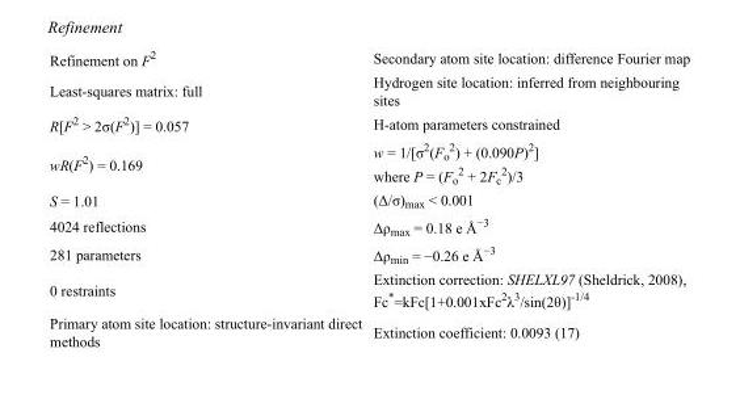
<table><tbody><tr><td>Refinement on F<sup>2</sup></td><td>Secondary atom site location: difference Fourier map</td></tr><tr><td>Least-squares matrix: full</td><td>Hydrogen site location: inferred from neighbouring sites</td></tr><tr><td>R[F<sup>2</sup> &gt; 2σ(F<sup>2</sup>)] = 0.057</td><td>H-atom parameters constrained</td></tr><tr><td>wR(F<sup>2</sup>) = 0.169</td><td>w = 1/[σ<sup>2</sup>(F<sub>o</sub> <sup>2</sup>) + (0.090P)<sup>2</sup>] where P = (F<sub>o</sub> <sup>2</sup> + 2F<sub>c</sub> <sup>2</sup>)/3</td></tr><tr><td>S = 1.01</td><td>(Δ/σ)<sub>max</sub> &lt; 0.001</td></tr><tr><td>4024 reflections</td><td>Δρ<sub>max</sub> = 0.18 e Å<sup>−3</sup></td></tr><tr><td>281 parameters</td><td>Δρ<sub>min</sub> = −0.26 e Å<sup>−3</sup></td></tr><tr><td>0 restraints</td><td>Extinction correction: SHELXL97 (Sheldrick, 2008), Fc*=kFc[1+0.001xFc<sup>2</sup>λ<sup>3</sup>/sin(2θ)]<sup>-1/4</sup></td></tr><tr><td>Primary atom site location: structure-invariant direct methods</td><td>Extinction coefficient: 0.0093 (17)</td></tr></tbody></table>